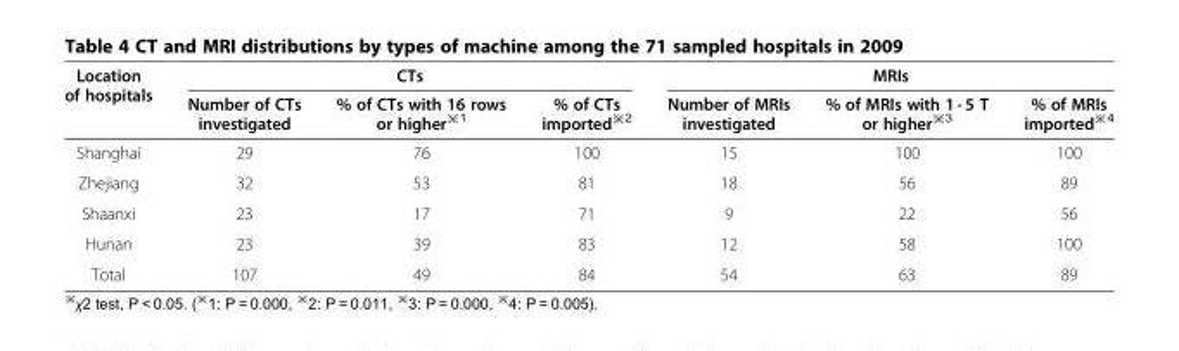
<table><thead><tr><td rowspan="2">Location of hospitals</td><td colspan="3">CTs</td><td colspan="3">MRIs</td></tr><tr><td>Number of CTs investigated</td><td>% of CTs with 16 rows or higher<sup>※1</sup></td><td>% of CTs imported<sup>※2</sup></td><td>Number of MRIs investigated</td><td>% of MRIs with 1 · 5 T or higher<sup>※3</sup></td><td>% of MRIs imported<sup>※4</sup></td></tr></thead><tbody><tr><td>Shanghai</td><td>29</td><td>76</td><td>100</td><td>15</td><td>100</td><td>100</td></tr><tr><td>Zhejiang</td><td>32</td><td>53</td><td>81</td><td>18</td><td>56</td><td>89</td></tr><tr><td>Shaanxi</td><td>23</td><td>17</td><td>71</td><td>9</td><td>22</td><td>56</td></tr><tr><td>Hunan</td><td>23</td><td>39</td><td>83</td><td>12</td><td>58</td><td>100</td></tr><tr><td>Total</td><td>107</td><td>49</td><td>84</td><td>54</td><td>63</td><td>89</td></tr></tbody></table>